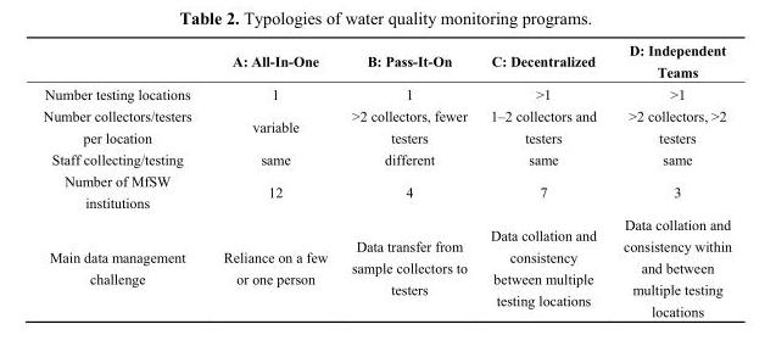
<table><thead><tr><td></td><td>A: All-In-One</td><td>B: Pass-It-On</td><td>C: Decentralized</td><td>D: Independent Teams</td></tr></thead><tbody><tr><td>Number testing locations</td><td>1</td><td>1</td><td>&gt;1</td><td>&gt;1</td></tr><tr><td>Number collectors/testers per location</td><td>variable</td><td>&gt;2 collectors, fewer testers</td><td>1–2 collectors and testers</td><td>&gt;2 collectors, &gt;2 testers</td></tr><tr><td>Staff collecting/testing</td><td>same</td><td>different</td><td>same</td><td>same</td></tr><tr><td>Number of MfSW institutions</td><td>12</td><td>4</td><td>7</td><td>3</td></tr><tr><td>Main data management challenge</td><td>Reliance on a few or one person</td><td>Data transfer from sample collectors to testers</td><td>Data collation and consistency between multiple testing locations</td><td>Data collation and consistency within and between multiple testing locations</td></tr></tbody></table>